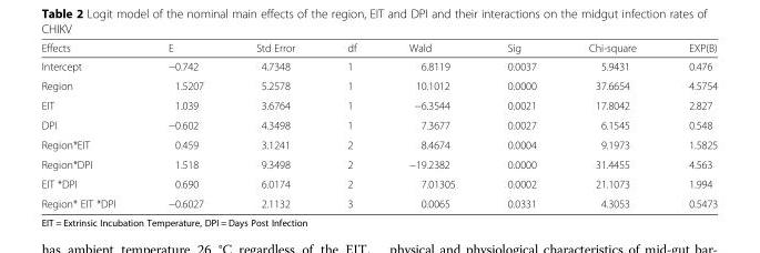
<table><thead><tr><td>Effects</td><td>E</td><td>Std Error</td><td>df</td><td>Wald</td><td>Sig</td><td>Chi-square</td><td>EXP(B)</td></tr></thead><tbody><tr><td>Intercept</td><td>−0.742</td><td>4.7348</td><td>1</td><td>6.8119</td><td>0.0037</td><td>5.9431</td><td>0.476</td></tr><tr><td>Region</td><td>1.5207</td><td>5.2578</td><td>1</td><td>10.1012</td><td>0.0000</td><td>37.6654</td><td>4.5754</td></tr><tr><td>EIT</td><td>1.039</td><td>3.6764</td><td>1</td><td>−6.3544</td><td>0.0021</td><td>17.8042</td><td>2.827</td></tr><tr><td>DPI</td><td>−0.602</td><td>4.3498</td><td>1</td><td>7.3677</td><td>0.0027</td><td>6.1545</td><td>0.548</td></tr><tr><td>Region*EIT</td><td>0.459</td><td>3.1241</td><td>2</td><td>8.4674</td><td>0.0004</td><td>9.1973</td><td>1.5825</td></tr><tr><td>Region*DPI</td><td>1.518</td><td>9.3498</td><td>2</td><td>−19.2382</td><td>0.0000</td><td>31.4455</td><td>4.563</td></tr><tr><td>EIT *DPI</td><td>0.690</td><td>6.0174</td><td>2</td><td>7.01305</td><td>0.0002</td><td>21.1073</td><td>1.994</td></tr><tr><td>Region* EIT *DPI</td><td>−0.6027</td><td>2.1132</td><td>3</td><td>0.0065</td><td>0.0331</td><td>4.3053</td><td>0.5473</td></tr></tbody></table>